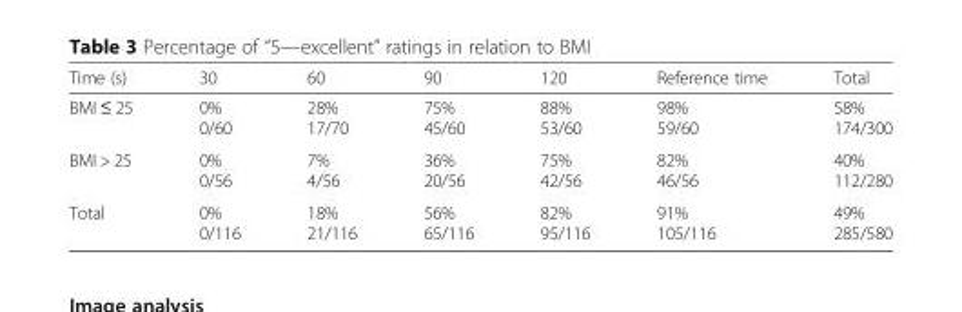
<table><thead><tr><td>Time (s)</td><td>30</td><td>60</td><td>90</td><td>120</td><td>Reference time</td><td>Total</td></tr></thead><tbody><tr><td>BMI ≤ 25</td><td>0% 0/60</td><td>28% 17/70</td><td>75% 45/60</td><td>88% 53/60</td><td>98% 59/60</td><td>58% 174/300</td></tr><tr><td>BMI &gt; 25</td><td>0% 0/56</td><td>7% 4/56</td><td>36% 20/56</td><td>75% 42/56</td><td>82% 46/56</td><td>40% 112/280</td></tr><tr><td>Total</td><td>0% 0/116</td><td>18% 21/116</td><td>56% 65/116</td><td>82% 95/116</td><td>91% 105/116</td><td>49% 285/580</td></tr></tbody></table>